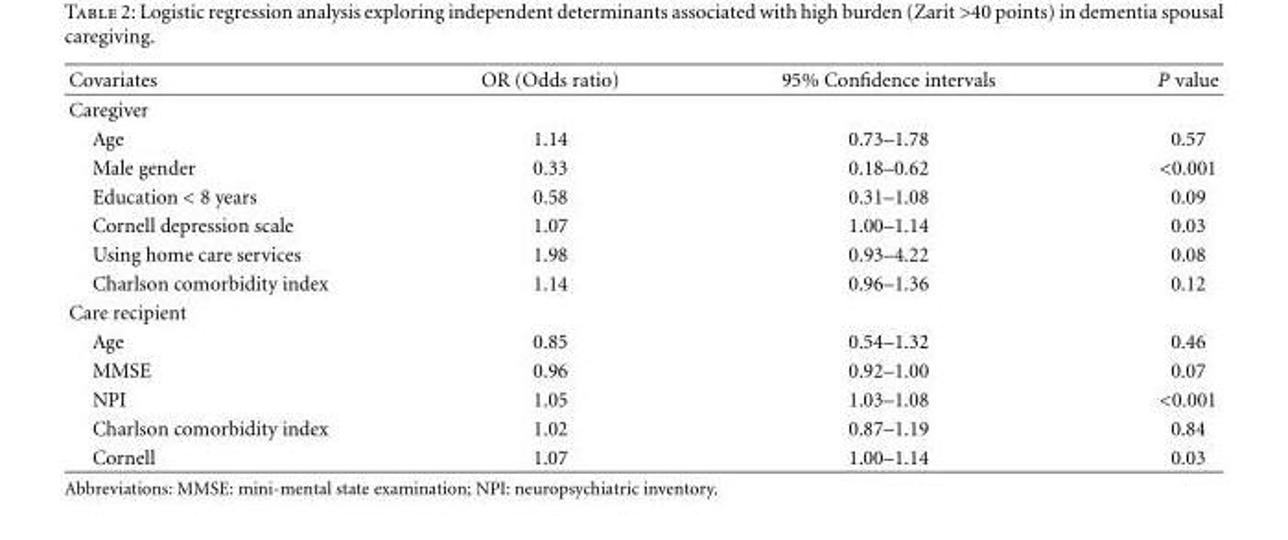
<table><thead><tr><td>Covariates</td><td>OR (Odds ratio)</td><td>95% Confidence intervals</td><td>P value</td></tr></thead><tbody><tr><td colspan="4">Caregiver</td></tr><tr><td>Age</td><td>1.14</td><td>0.73–1.78</td><td>0.57</td></tr><tr><td>Male gender</td><td>0.33</td><td>0.18–0.62</td><td>&lt;0.001</td></tr><tr><td>Education &lt; 8 years</td><td>0.58</td><td>0.31–1.08</td><td>0.09</td></tr><tr><td>Cornell depression scale</td><td>1.07</td><td>1.00–1.14</td><td>0.03</td></tr><tr><td>Using home care services</td><td>1.98</td><td>0.93–4.22</td><td>0.08</td></tr><tr><td>Charlson comorbidity index</td><td>1.14</td><td>0.96–1.36</td><td>0.12</td></tr><tr><td colspan="4">Care recipient</td></tr><tr><td>Age</td><td>0.85</td><td>0.54–1.32</td><td>0.46</td></tr><tr><td>MMSE</td><td>0.96</td><td>0.92–1.00</td><td>0.07</td></tr><tr><td>NPI</td><td>1.05</td><td>1.03–1.08</td><td>&lt;0.001</td></tr><tr><td>Charlson comorbidity index</td><td>1.02</td><td>0.87–1.19</td><td>0.84</td></tr><tr><td>Cornell</td><td>1.07</td><td>1.00–1.14</td><td>0.03</td></tr></tbody></table>